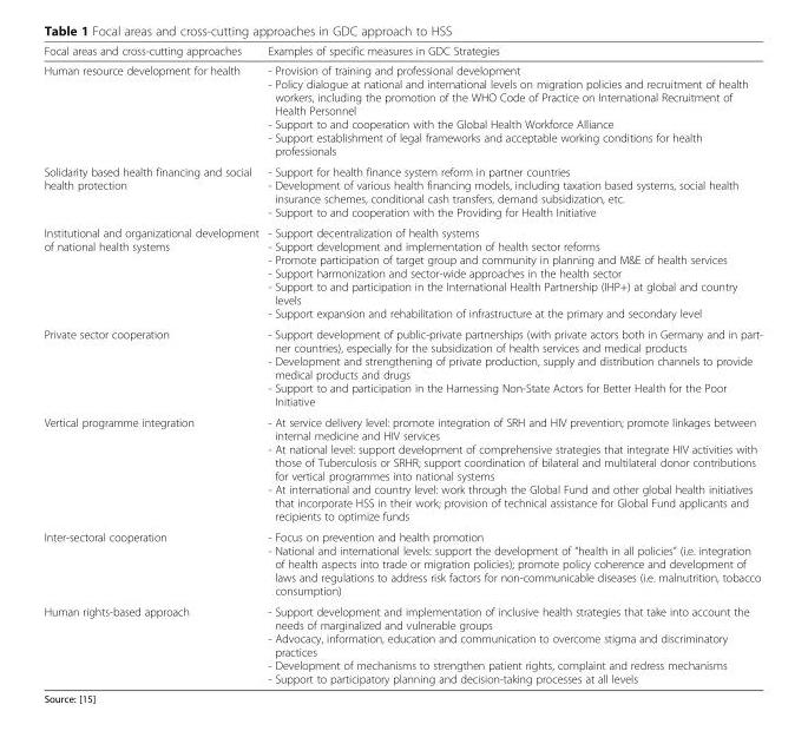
<table><thead><tr><td>Focal areas and cross-cutting approaches</td><td>Examples of specific measures in GDC Strategies</td></tr></thead><tbody><tr><td>Human resource development for health</td><td>- Provision of training and professional development - Policy dialogue at national and international levels on migration policies and recruitment of health workers, including the promotion of the WHO Code of Practice on International Recruitment of Health Personnel - Support to and cooperation with the Global Health Workforce Alliance - Support establishment of legal frameworks and acceptable working conditions for health professionals</td></tr><tr><td>Solidarity based health financing and social health protection</td><td>- Support for health finance system reform in partner countries - Development of various health financing models, including taxation based systems, social health insurance schemes, conditional cash transfers, demand subsidization, etc. - Support to and cooperation with the Providing for Health Initiative</td></tr><tr><td>Institutional and organizational development of national health systems</td><td>- Support decentralization of health systems - Support development and implementation of health sector reforms - Promote participation of target group and community in planning and M&amp;E of health services - Support harmonization and sector-wide approaches in the health sector - Support to and participation in the International Health Partnership (IHP+) at global and country levels - Support expansion and rehabilitation of infrastructure at the primary and secondary level</td></tr><tr><td>Private sector cooperation</td><td>- Support development of public-private partnerships (with private actors both in Germany and in part- ner countries), especially for the subsidization of health services and medical products - Development and strengthening of private production, supply and distribution channels to provide medical products and drugs - Support to and participation in the Harnessing Non-State Actors for Better Health for the Poor Initiative</td></tr><tr><td>Vertical programme integration</td><td>- At service delivery level: promote integration of SRH and HIV prevention; promote linkages between internal medicine and HIV services - At national level: support development of comprehensive strategies that integrate HIV activities with those of Tuberculosis or SRHR; support coordination of bilateral and multilateral donor contributions for vertical programmes into national systems - At international and country level: work through the Global Fund and other global health initiatives that incorporate HSS in their work; provision of technical assistance for Global Fund applicants and recipients to optimize funds</td></tr><tr><td>Inter-sectoral cooperation</td><td>- Focus on prevention and health promotion - National and international levels: support the development of “health in all policies” (i.e. integration of health aspects into trade or migration policies); promote policy coherence and development of laws and regulations to address risk factors for non-communicable diseases (i.e. malnutrition, tobacco consumption)</td></tr><tr><td>Human rights-based approach</td><td>- Support development and implementation of inclusive health strategies that take into account the needs of marginalized and vulnerable groups - Advocacy, information, education and communication to overcome stigma and discriminatory practices - Development of mechanisms to strengthen patient rights, complaint and redress mechanisms - Support to participatory planning and decision-taking processes at all levels</td></tr></tbody></table>